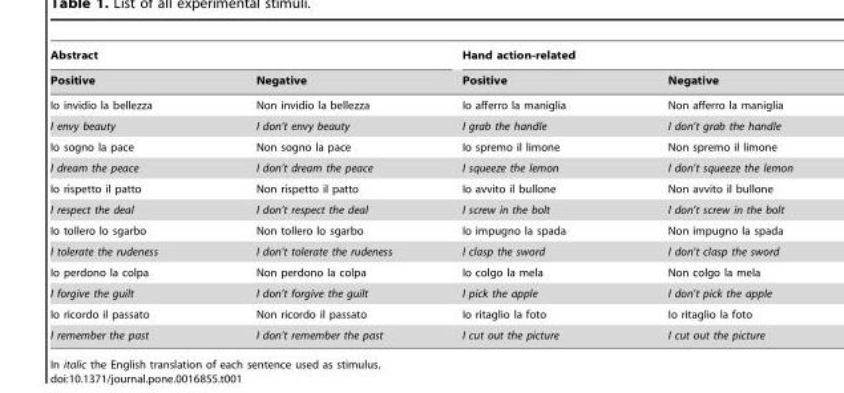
<table><thead><tr><td colspan="2">Abstract</td><td colspan="2">Hand action-related</td></tr><tr><td>Positive</td><td>Negative</td><td>Positive</td><td>Negative</td></tr></thead><tbody><tr><td>Io invidio la bellezza</td><td>Non invidio la bellezza</td><td>Io afferro la maniglia</td><td>Non afferro la maniglia</td></tr><tr><td>I envy beauty</td><td>I don’t envy beauty</td><td>I grab the handle</td><td>I don’t grab the handle</td></tr><tr><td>Io sogno la pace</td><td>Non sogno la pace</td><td>Io spremo il limone</td><td>Non spremo il limone</td></tr><tr><td>I dream the peace</td><td>I don’t dream the peace</td><td>I squeeze the lemon</td><td>I don’t squeeze the lemon</td></tr><tr><td>Io rispetto il patto</td><td>Non rispetto il patto</td><td>Io avvito il bullone</td><td>Non avvito il bullone</td></tr><tr><td>I respect the deal</td><td>I don’t respect the deal</td><td>I screw in the bolt</td><td>I don’t screw in the bolt</td></tr><tr><td>Io tollero lo sgarbo</td><td>Non tollero lo sgarbo</td><td>Io impugno la spada</td><td>Non impugno la spada</td></tr><tr><td>I tolerate the rudeness</td><td>I don’t tolerate the rudeness</td><td>I clasp the sword</td><td>I don’t clasp the sword</td></tr><tr><td>Io perdono la colpa</td><td>Non perdono la colpa</td><td>Io colgo la mela</td><td>Non colgo la mela</td></tr><tr><td>I forgive the guilt</td><td>I don’t forgive the guilt</td><td>I pick the apple</td><td>I don’t pick the apple</td></tr><tr><td>Io ricordo il passato</td><td>Non ricordo il passato</td><td>Io ritaglio la foto</td><td>Io ritaglio la foto</td></tr><tr><td>I remember the past</td><td>I don’t remember the past</td><td>I cut out the picture</td><td>I cut out the picture</td></tr></tbody></table>